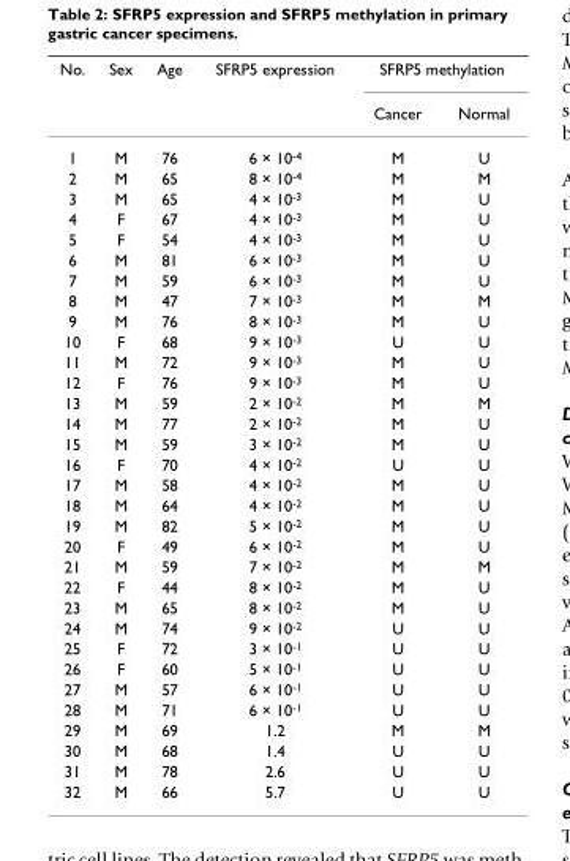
<table><thead><tr><td rowspan="2">No.</td><td rowspan="2">Sex</td><td rowspan="2">Age</td><td rowspan="2">SFRP5 expression</td><td colspan="2">SFRP5 methylation</td></tr><tr><td>Cancer</td><td>Normal</td></tr></thead><tbody><tr><td>1</td><td>M</td><td>76</td><td>6 × 10<sup>-4</sup></td><td>M</td><td>U</td></tr><tr><td>2</td><td>M</td><td>65</td><td>8 × 10<sup>-4</sup></td><td>M</td><td>M</td></tr><tr><td>3</td><td>M</td><td>65</td><td>4 × 10<sup>-3</sup></td><td>M</td><td>U</td></tr><tr><td>4</td><td>F</td><td>67</td><td>4 × 10<sup>-3</sup></td><td>M</td><td>U</td></tr><tr><td>5</td><td>F</td><td>54</td><td>4 × 10<sup>-3</sup></td><td>M</td><td>U</td></tr><tr><td>6</td><td>M</td><td>81</td><td>6 × 10<sup>-3</sup></td><td>M</td><td>U</td></tr><tr><td>7</td><td>M</td><td>59</td><td>6 × 10<sup>-3</sup></td><td>M</td><td>U</td></tr><tr><td>8</td><td>M</td><td>47</td><td>7 × 10<sup>-3</sup></td><td>M</td><td>M</td></tr><tr><td>9</td><td>M</td><td>76</td><td>8 × 10<sup>-3</sup></td><td>M</td><td>U</td></tr><tr><td>10</td><td>F</td><td>68</td><td>9 × 10<sup>-3</sup></td><td>U</td><td>U</td></tr><tr><td>11</td><td>M</td><td>72</td><td>9 × 10<sup>-3</sup></td><td>M</td><td>U</td></tr><tr><td>12</td><td>F</td><td>76</td><td>9 × 10<sup>-3</sup></td><td>M</td><td>U</td></tr><tr><td>13</td><td>M</td><td>59</td><td>2 × 10<sup>-2</sup></td><td>M</td><td>M</td></tr><tr><td>14</td><td>M</td><td>77</td><td>2 × 10<sup>-2</sup></td><td>M</td><td>U</td></tr><tr><td>15</td><td>M</td><td>59</td><td>3 × 10<sup>-2</sup></td><td>M</td><td>U</td></tr><tr><td>16</td><td>F</td><td>70</td><td>4 × 10<sup>-2</sup></td><td>U</td><td>U</td></tr><tr><td>17</td><td>M</td><td>58</td><td>4 × 10<sup>-2</sup></td><td>M</td><td>U</td></tr><tr><td>18</td><td>M</td><td>64</td><td>4 × 10<sup>-2</sup></td><td>M</td><td>U</td></tr><tr><td>19</td><td>M</td><td>82</td><td>5 × 10<sup>-2</sup></td><td>M</td><td>U</td></tr><tr><td>20</td><td>F</td><td>49</td><td>6 × 10<sup>-2</sup></td><td>M</td><td>U</td></tr><tr><td>21</td><td>M</td><td>59</td><td>7 × 10<sup>-2</sup></td><td>M</td><td>M</td></tr><tr><td>22</td><td>F</td><td>44</td><td>8 × 10<sup>-2</sup></td><td>M</td><td>U</td></tr><tr><td>23</td><td>M</td><td>65</td><td>8 × 10<sup>-2</sup></td><td>M</td><td>U</td></tr><tr><td>24</td><td>M</td><td>74</td><td>9 × 10<sup>-2</sup></td><td>U</td><td>U</td></tr><tr><td>25</td><td>F</td><td>72</td><td>3 × 10<sup>-1</sup></td><td>U</td><td>U</td></tr><tr><td>26</td><td>F</td><td>60</td><td>5 × 10<sup>-1</sup></td><td>U</td><td>U</td></tr><tr><td>27</td><td>M</td><td>57</td><td>6 × 10<sup>-1</sup></td><td>U</td><td>U</td></tr><tr><td>28</td><td>M</td><td>71</td><td>6 × 10<sup>-1</sup></td><td>U</td><td>U</td></tr><tr><td>29</td><td>M</td><td>69</td><td>1.2</td><td>M</td><td>M</td></tr><tr><td>30</td><td>M</td><td>68</td><td>1.4</td><td>U</td><td>U</td></tr><tr><td>31</td><td>M</td><td>78</td><td>2.6</td><td>U</td><td>U</td></tr><tr><td>32</td><td>M</td><td>66</td><td>5.7</td><td>U</td><td>U</td></tr></tbody></table>